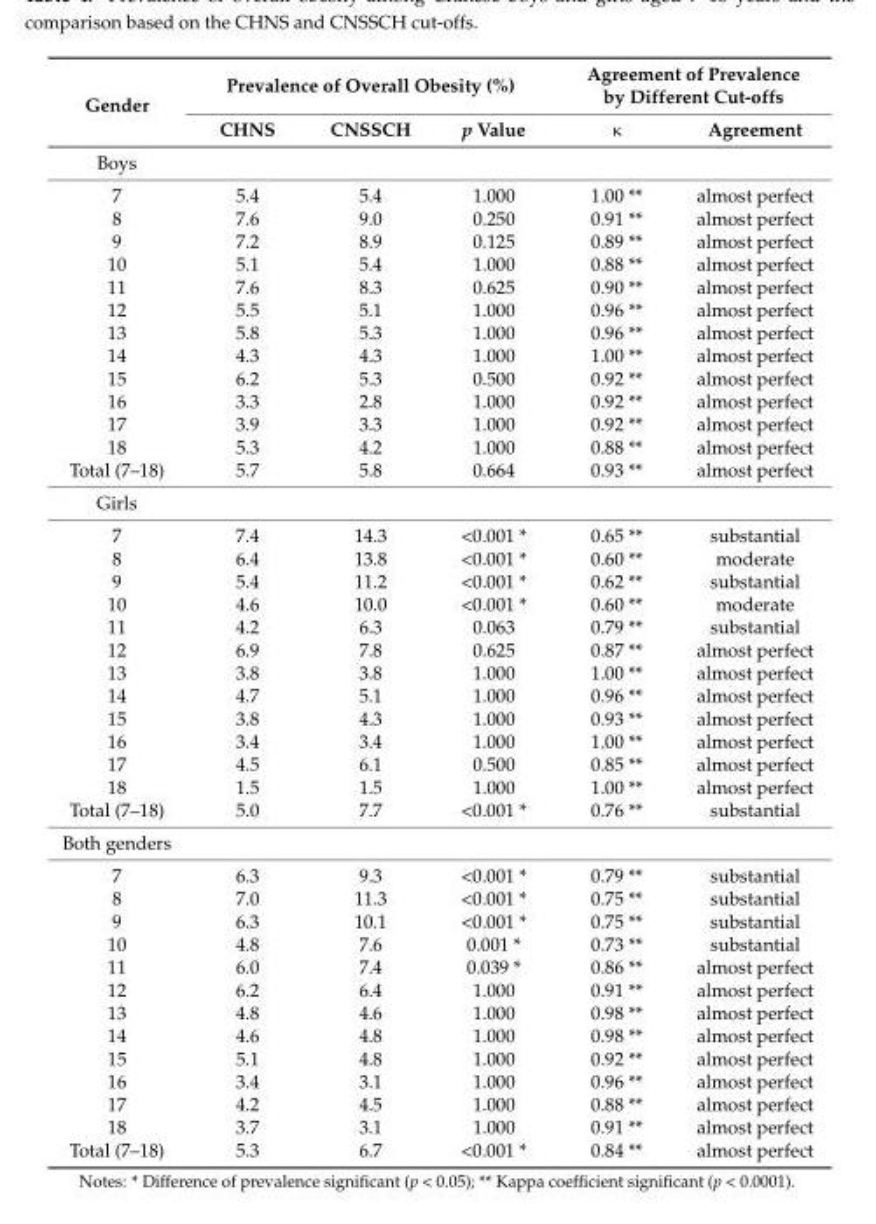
<table><thead><tr><td rowspan="2">Gender</td><td colspan="3">Prevalence of Overall Obesity (%)</td><td colspan="2">Agreement of Prevalence by Different Cut-offs</td></tr><tr><td>CHNS</td><td>CNSSCH</td><td>p Value</td><td>κ</td><td>Agreement</td></tr></thead><tbody><tr><td colspan="6">Boys</td></tr><tr><td>7</td><td>5.4</td><td>5.4</td><td>1.000</td><td>1.00 **</td><td>almost perfect</td></tr><tr><td>8</td><td>7.6</td><td>9.0</td><td>0.250</td><td>0.91 **</td><td>almost perfect</td></tr><tr><td>9</td><td>7.2</td><td>8.9</td><td>0.125</td><td>0.89 **</td><td>almost perfect</td></tr><tr><td>10</td><td>5.1</td><td>5.4</td><td>1.000</td><td>0.88 **</td><td>almost perfect</td></tr><tr><td>11</td><td>7.6</td><td>8.3</td><td>0.625</td><td>0.90 **</td><td>almost perfect</td></tr><tr><td>12</td><td>5.5</td><td>5.1</td><td>1.000</td><td>0.96 **</td><td>almost perfect</td></tr><tr><td>13</td><td>5.8</td><td>5.3</td><td>1.000</td><td>0.96 **</td><td>almost perfect</td></tr><tr><td>14</td><td>4.3</td><td>4.3</td><td>1.000</td><td>1.00 **</td><td>almost perfect</td></tr><tr><td>15</td><td>6.2</td><td>5.3</td><td>0.500</td><td>0.92 **</td><td>almost perfect</td></tr><tr><td>16</td><td>3.3</td><td>2.8</td><td>1.000</td><td>0.92 **</td><td>almost perfect</td></tr><tr><td>17</td><td>3.9</td><td>3.3</td><td>1.000</td><td>0.92 **</td><td>almost perfect</td></tr><tr><td>18</td><td>5.3</td><td>4.2</td><td>1.000</td><td>0.88 **</td><td>almost perfect</td></tr><tr><td>Total (7–18)</td><td>5.7</td><td>5.8</td><td>0.664</td><td>0.93 **</td><td>almost perfect</td></tr><tr><td colspan="6">Girls</td></tr><tr><td>7</td><td>7.4</td><td>14.3</td><td>&lt;0.001 *</td><td>0.65 **</td><td>substantial</td></tr><tr><td>8</td><td>6.4</td><td>13.8</td><td>&lt;0.001 *</td><td>0.60 **</td><td>moderate</td></tr><tr><td>9</td><td>5.4</td><td>11.2</td><td>&lt;0.001 *</td><td>0.62 **</td><td>substantial</td></tr><tr><td>10</td><td>4.6</td><td>10.0</td><td>&lt;0.001 *</td><td>0.60 **</td><td>moderate</td></tr><tr><td>11</td><td>4.2</td><td>6.3</td><td>0.063</td><td>0.79 **</td><td>substantial</td></tr><tr><td>12</td><td>6.9</td><td>7.8</td><td>0.625</td><td>0.87 **</td><td>almost perfect</td></tr><tr><td>13</td><td>3.8</td><td>3.8</td><td>1.000</td><td>1.00 **</td><td>almost perfect</td></tr><tr><td>14</td><td>4.7</td><td>5.1</td><td>1.000</td><td>0.96 **</td><td>almost perfect</td></tr><tr><td>15</td><td>3.8</td><td>4.3</td><td>1.000</td><td>0.93 **</td><td>almost perfect</td></tr><tr><td>16</td><td>3.4</td><td>3.4</td><td>1.000</td><td>1.00 **</td><td>almost perfect</td></tr><tr><td>17</td><td>4.5</td><td>6.1</td><td>0.500</td><td>0.85 **</td><td>almost perfect</td></tr><tr><td>18</td><td>1.5</td><td>1.5</td><td>1.000</td><td>1.00 **</td><td>almost perfect</td></tr><tr><td>Total (7–18)</td><td>5.0</td><td>7.7</td><td>&lt;0.001 *</td><td>0.76 **</td><td>substantial</td></tr><tr><td colspan="6">Both genders</td></tr><tr><td>7</td><td>6.3</td><td>9.3</td><td>&lt;0.001 *</td><td>0.79 **</td><td>substantial</td></tr><tr><td>8</td><td>7.0</td><td>11.3</td><td>&lt;0.001 *</td><td>0.75 **</td><td>substantial</td></tr><tr><td>9</td><td>6.3</td><td>10.1</td><td>&lt;0.001 *</td><td>0.75 **</td><td>substantial</td></tr><tr><td>10</td><td>4.8</td><td>7.6</td><td>0.001 *</td><td>0.73 **</td><td>substantial</td></tr><tr><td>11</td><td>6.0</td><td>7.4</td><td>0.039 *</td><td>0.86 **</td><td>almost perfect</td></tr><tr><td>12</td><td>6.2</td><td>6.4</td><td>1.000</td><td>0.91 **</td><td>almost perfect</td></tr><tr><td>13</td><td>4.8</td><td>4.6</td><td>1.000</td><td>0.98 **</td><td>almost perfect</td></tr><tr><td>14</td><td>4.6</td><td>4.8</td><td>1.000</td><td>0.98 **</td><td>almost perfect</td></tr><tr><td>15</td><td>5.1</td><td>4.8</td><td>1.000</td><td>0.92 **</td><td>almost perfect</td></tr><tr><td>16</td><td>3.4</td><td>3.1</td><td>1.000</td><td>0.96 **</td><td>almost perfect</td></tr><tr><td>17</td><td>4.2</td><td>4.5</td><td>1.000</td><td>0.88 **</td><td>almost perfect</td></tr><tr><td>18</td><td>3.7</td><td>3.1</td><td>1.000</td><td>0.91 **</td><td>almost perfect</td></tr><tr><td>Total (7–18)</td><td>5.3</td><td>6.7</td><td>&lt;0.001 *</td><td>0.84 **</td><td>almost perfect</td></tr></tbody></table>